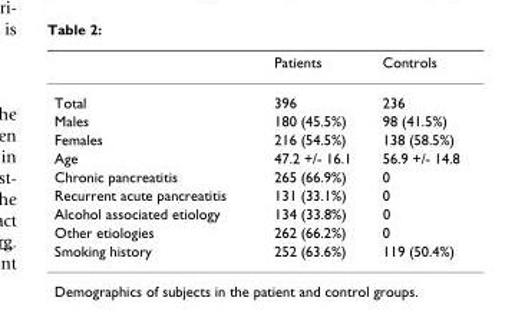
<table><thead><tr><td></td><td>Patients</td><td>Controls</td></tr></thead><tbody><tr><td>Total</td><td>396</td><td>236</td></tr><tr><td>Males</td><td>180 (45.5%)</td><td>98 (41.5%)</td></tr><tr><td>Females</td><td>216 (54.5%)</td><td>138 (58.5%)</td></tr><tr><td>Age</td><td>47.2 +/- 16.1</td><td>56.9 +/- 14.8</td></tr><tr><td>Chronic pancreatitis</td><td>265 (66.9%)</td><td>0</td></tr><tr><td>Recurrent acute pancreatitis</td><td>131 (33.1%)</td><td>0</td></tr><tr><td>Alcohol associated etiology</td><td>134 (33.8%)</td><td>0</td></tr><tr><td>Other etiologies</td><td>262 (66.2%)</td><td>0</td></tr><tr><td>Smoking history</td><td>252 (63.6%)</td><td>119 (50.4%)</td></tr></tbody></table>